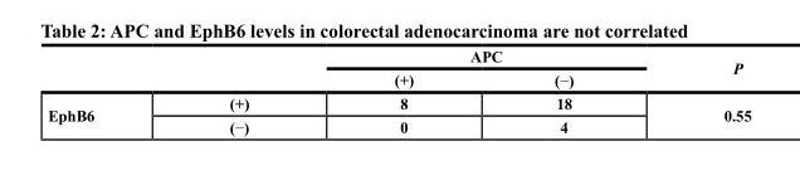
<table><thead><tr><td rowspan="2"></td><td rowspan="2"></td><td colspan="2">APC</td><td rowspan="2">P</td></tr><tr><td>(+)</td><td>(−)</td></tr></thead><tbody><tr><td rowspan="2">EphB6</td><td>(+)</td><td>8</td><td>18</td><td rowspan="2">0.55</td></tr><tr><td>(−)</td><td>0</td><td>4</td></tr></tbody></table>